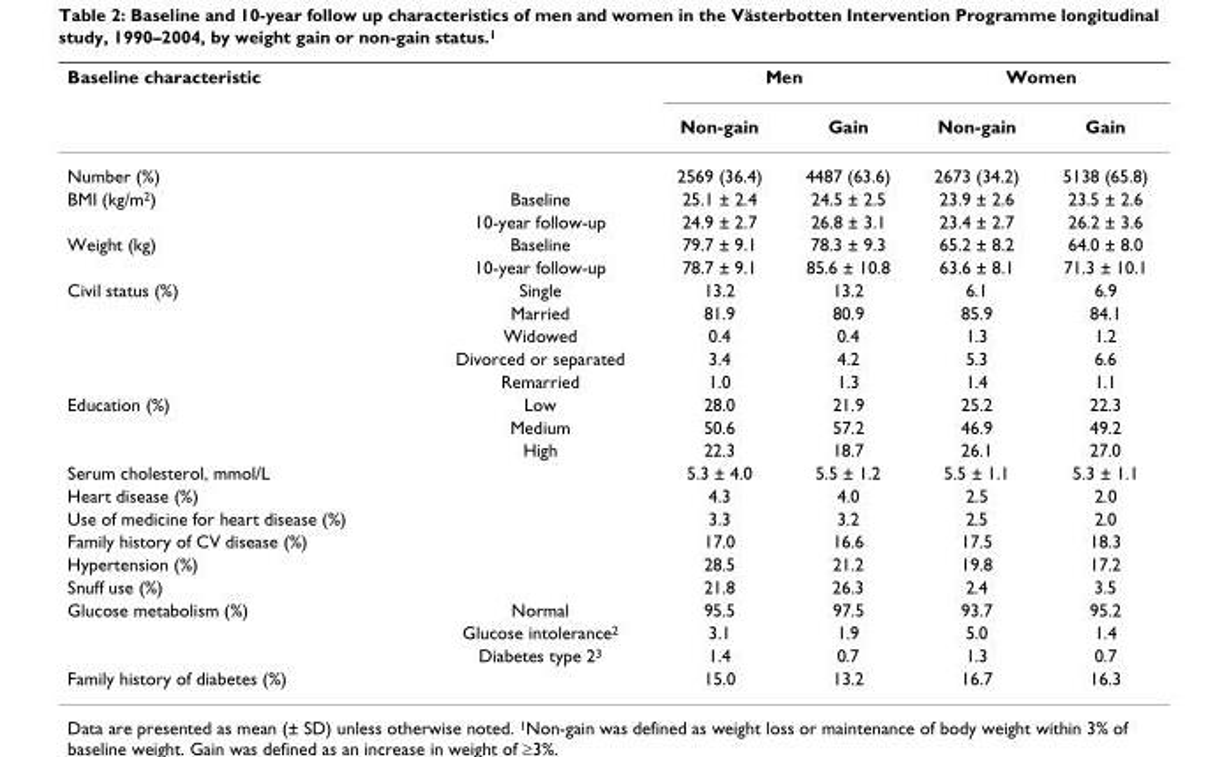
<table><thead><tr><td colspan="2">Baseline characteristic</td><td colspan="2">Men</td><td colspan="2">Women</td></tr><tr><td></td><td></td><td>Non-gain</td><td>Gain</td><td>Non-gain</td><td>Gain</td></tr></thead><tbody><tr><td>Number (%)</td><td></td><td>2569 (36.4)</td><td>4487 (63.6)</td><td>2673 (34.2)</td><td>5138 (65.8)</td></tr><tr><td rowspan="2">BMI (kg/m<sup>2</sup>)</td><td>Baseline</td><td>25.1 ± 2.4</td><td>24.5 ± 2.5</td><td>23.9 ± 2.6</td><td>23.5 ± 2.6</td></tr><tr><td>10-year follow-up</td><td>24.9 ± 2.7</td><td>26.8 ± 3.1</td><td>23.4 ± 2.7</td><td>26.2 ± 3.6</td></tr><tr><td rowspan="2">Weight (kg)</td><td>Baseline</td><td>79.7 ± 9.1</td><td>78.3 ± 9.3</td><td>65.2 ± 8.2</td><td>64.0 ± 8.0</td></tr><tr><td>10-year follow-up</td><td>78.7 ± 9.1</td><td>85.6 ± 10.8</td><td>63.6 ± 8.1</td><td>71.3 ± 10.1</td></tr><tr><td rowspan="5">Civil status (%)</td><td>Single</td><td>13.2</td><td>13.2</td><td>6.1</td><td>6.9</td></tr><tr><td>Married</td><td>81.9</td><td>80.9</td><td>85.9</td><td>84.1</td></tr><tr><td>Widowed</td><td>0.4</td><td>0.4</td><td>1.3</td><td>1.2</td></tr><tr><td>Divorced or separated</td><td>3.4</td><td>4.2</td><td>5.3</td><td>6.6</td></tr><tr><td>Remarried</td><td>1.0</td><td>1.3</td><td>1.4</td><td>1.1</td></tr><tr><td rowspan="3">Education (%)</td><td>Low</td><td>28.0</td><td>21.9</td><td>25.2</td><td>22.3</td></tr><tr><td>Medium</td><td>50.6</td><td>57.2</td><td>46.9</td><td>49.2</td></tr><tr><td>High</td><td>22.3</td><td>18.7</td><td>26.1</td><td>27.0</td></tr><tr><td>Serum cholesterol, mmol/L</td><td></td><td>5.3 ± 4.0</td><td>5.5 ± 1.2</td><td>5.5 ± 1.1</td><td>5.3 ± 1.1</td></tr><tr><td>Heart disease (%)</td><td></td><td>4.3</td><td>4.0</td><td>2.5</td><td>2.0</td></tr><tr><td>Use of medicine for heart disease (%)</td><td></td><td>3.3</td><td>3.2</td><td>2.5</td><td>2.0</td></tr><tr><td>Family history of CV disease (%)</td><td></td><td>17.0</td><td>16.6</td><td>17.5</td><td>18.3</td></tr><tr><td>Hypertension (%)</td><td></td><td>28.5</td><td>21.2</td><td>19.8</td><td>17.2</td></tr><tr><td>Snuff use (%)</td><td></td><td>21.8</td><td>26.3</td><td>2.4</td><td>3.5</td></tr><tr><td rowspan="3">Glucose metabolism (%)</td><td>Normal</td><td>95.5</td><td>97.5</td><td>93.7</td><td>95.2</td></tr><tr><td>Glucose intolerance<sup>2</sup></td><td>3.1</td><td>1.9</td><td>5.0</td><td>1.4</td></tr><tr><td>Diabetes type 2<sup>3</sup></td><td>1.4</td><td>0.7</td><td>1.3</td><td>0.7</td></tr><tr><td>Family history of diabetes (%)</td><td></td><td>15.0</td><td>13.2</td><td>16.7</td><td>16.3</td></tr></tbody></table>